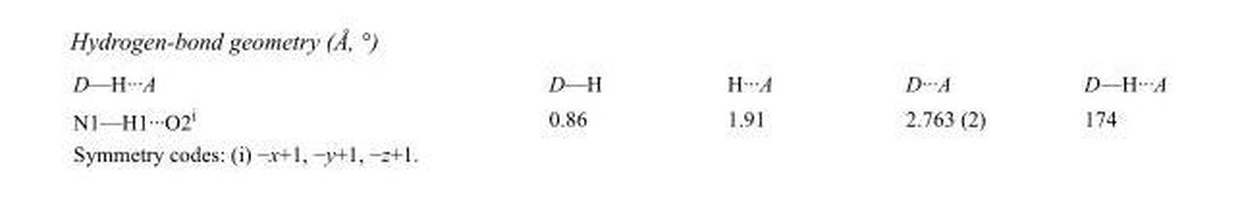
<table><tbody><tr><td>D—H···A</td><td>D—H</td><td>H···A</td><td>D···A</td><td>D—H···A</td></tr><tr><td>N1—H1···O2<sup>i</sup></td><td>0.86</td><td>1.91</td><td>2.763 (2)</td><td>174</td></tr></tbody></table>